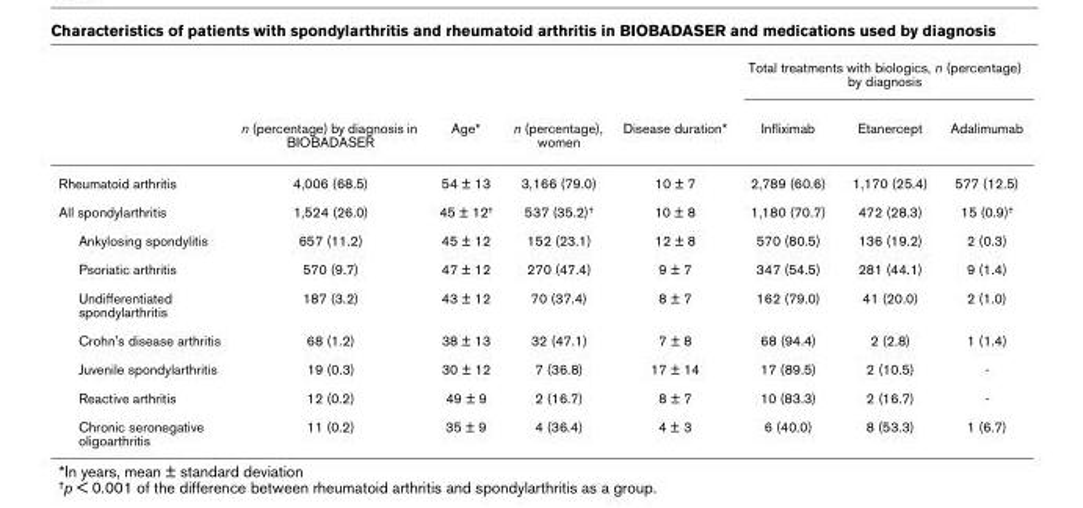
<table><thead><tr><td rowspan="2"></td><td rowspan="2">n (percentage) by diagnosis in BIOBADASER</td><td rowspan="2">Age*</td><td rowspan="2">n (percentage), women</td><td rowspan="2">Disease duration*</td><td colspan="3">Total treatments with biologics, n (percentage) by diagnosis</td></tr><tr><td>Infliximab</td><td>Etanercept</td><td>Adalimumab</td></tr></thead><tbody><tr><td>Rheumatoid arthritis</td><td>4,006 (68.5)</td><td>54 ± 13</td><td>3,166 (79.0)</td><td>10 ± 7</td><td>2,789 (60.6)</td><td>1,170 (25.4)</td><td>577 (12.5)</td></tr><tr><td>All spondylarthritis</td><td>1,524 (26.0)</td><td>45 ± 12†</td><td>537 (35.2)†</td><td>10 ± 8</td><td>1,180 (70.7)</td><td>472 (28.3)</td><td>15 (0.9)†</td></tr><tr><td>Ankylosing spondylitis</td><td>657 (11.2)</td><td>45 ± 12</td><td>152 (23.1)</td><td>12 ± 8</td><td>570 (80.5)</td><td>136 (19.2)</td><td>2 (0.3)</td></tr><tr><td>Psoriatic arthritis</td><td>570 (9.7)</td><td>47 ± 12</td><td>270 (47.4)</td><td>9 ± 7</td><td>347 (54.5)</td><td>281 (44.1)</td><td>9 (1.4)</td></tr><tr><td>Undifferentiated spondylarthritis</td><td>187 (3.2)</td><td>43 ± 12</td><td>70 (37.4)</td><td>8 ± 7</td><td>162 (79.0)</td><td>41 (20.0)</td><td>2 (1.0)</td></tr><tr><td>Crohn&#x27;s disease arthritis</td><td>68 (1.2)</td><td>38 ± 13</td><td>32 (47.1)</td><td>7 ± 8</td><td>68 (94.4)</td><td>2 (2.8)</td><td>1 (1.4)</td></tr><tr><td>Juvenile spondylarthritis</td><td>19 (0.3)</td><td>30 ± 12</td><td>7 (36.8)</td><td>17 ± 14</td><td>17 (89.5)</td><td>2 (10.5)</td><td>-</td></tr><tr><td>Reactive arthritis</td><td>12 (0.2)</td><td>49 ± 9</td><td>2 (16.7)</td><td>8 ± 7</td><td>10 (83.3)</td><td>2 (16.7)</td><td>-</td></tr><tr><td>Chronic seronegative oligoarthritis</td><td>11 (0.2)</td><td>35 ± 9</td><td>4 (36.4)</td><td>4 ± 3</td><td>6 (40.0)</td><td>8 (53.3)</td><td>1 (6.7)</td></tr></tbody></table>